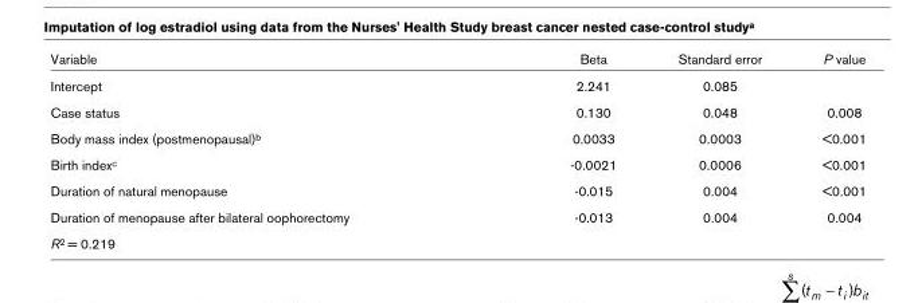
<table><thead><tr><td>Variable</td><td>Beta</td><td>Standard error</td><td>P value</td></tr></thead><tbody><tr><td>Intercept</td><td>2.241</td><td>0.085</td><td></td></tr><tr><td>Case status</td><td>0.130</td><td>0.048</td><td>0.008</td></tr><tr><td>Body mass index (postmenopausal)<sup>b</sup></td><td>0.0033</td><td>0.0003</td><td>&lt;0.001</td></tr><tr><td>Birth index<sup>c</sup></td><td>-0.0021</td><td>0.0006</td><td>&lt;0.001</td></tr><tr><td>Duration of natural menopause</td><td>-0.015</td><td>0.004</td><td>&lt;0.001</td></tr><tr><td>Duration of menopause after bilateral oophorectomy</td><td>-0.013</td><td>0.004</td><td>0.004</td></tr><tr><td>R<sup>2</sup> = 0.219</td><td></td><td></td><td></td></tr></tbody></table>